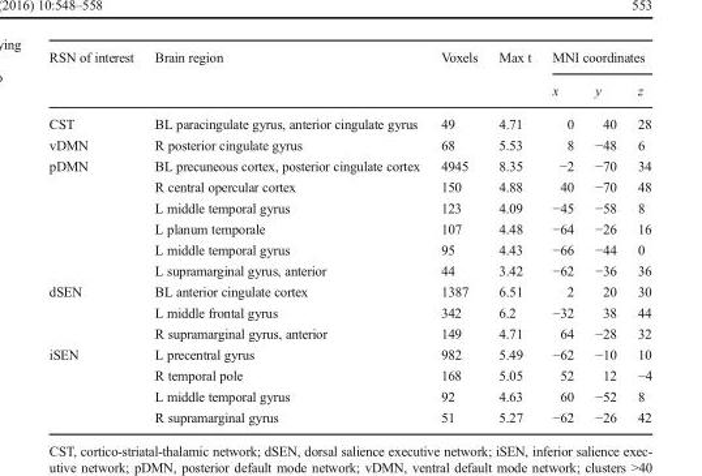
<table><thead><tr><td rowspan="2">RSN of interest</td><td rowspan="2">Brain region</td><td rowspan="2">Voxels</td><td rowspan="2">Max t</td><td colspan="3">MNI coordinates</td></tr><tr><td>x</td><td>y</td><td>z</td></tr></thead><tbody><tr><td>CST</td><td>BL paracingulate gyrus, anterior cingulate gyrus</td><td>49</td><td>4.71</td><td>0</td><td>40</td><td>28</td></tr><tr><td>vDMN</td><td>R posterior cingulate gyrus</td><td>68</td><td>5.53</td><td>8</td><td>−48</td><td>6</td></tr><tr><td rowspan="6">pDMN</td><td>BL precuneous cortex, posterior cingulate cortex</td><td>4945</td><td>8.35</td><td>−2</td><td>−70</td><td>34</td></tr><tr><td>R central opercular cortex</td><td>150</td><td>4.88</td><td>40</td><td>−70</td><td>48</td></tr><tr><td>L middle temporal gyrus</td><td>123</td><td>4.09</td><td>−45</td><td>−58</td><td>8</td></tr><tr><td>L planum temporale</td><td>107</td><td>4.48</td><td>−64</td><td>−26</td><td>16</td></tr><tr><td>L middle temporal gyrus</td><td>95</td><td>4.43</td><td>−66</td><td>−44</td><td>0</td></tr><tr><td>L supramarginal gyrus, anterior</td><td>44</td><td>3.42</td><td>−62</td><td>−36</td><td>36</td></tr><tr><td rowspan="3">dSEN</td><td>BL anterior cingulate cortex</td><td>1387</td><td>6.51</td><td>2</td><td>20</td><td>30</td></tr><tr><td>L middle frontal gyrus</td><td>342</td><td>6.2</td><td>−32</td><td>38</td><td>44</td></tr><tr><td>R supramarginal gyrus, anterior</td><td>149</td><td>4.71</td><td>64</td><td>−28</td><td>32</td></tr><tr><td rowspan="4">iSEN</td><td>L precentral gyrus</td><td>982</td><td>5.49</td><td>−62</td><td>−10</td><td>10</td></tr><tr><td>R temporal pole</td><td>168</td><td>5.05</td><td>52</td><td>12</td><td>−4</td></tr><tr><td>L middle temporal gyrus</td><td>92</td><td>4.63</td><td>60</td><td>−52</td><td>8</td></tr><tr><td>R supramarginal gyrus</td><td>51</td><td>5.27</td><td>−62</td><td>−26</td><td>42</td></tr></tbody></table>